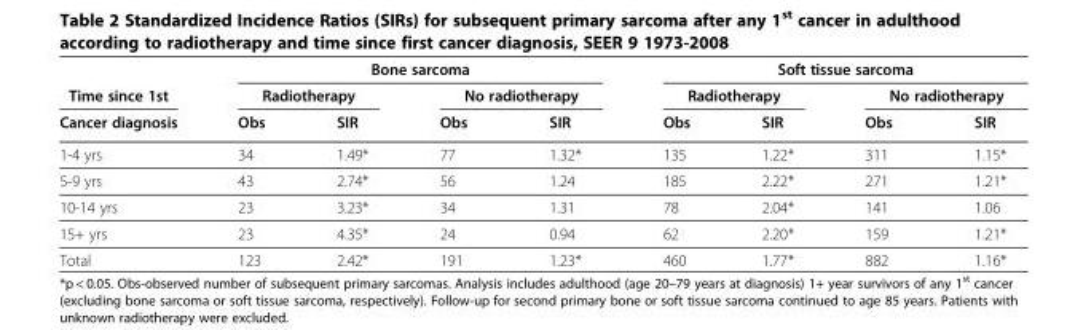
<table><thead><tr><td rowspan="3">Time since 1st Cancer diagnosis</td><td colspan="4">Bone sarcoma</td><td colspan="4">Soft tissue sarcoma</td></tr><tr><td colspan="2">Radiotherapy</td><td colspan="2">No radiotherapy</td><td colspan="2">Radiotherapy</td><td colspan="2">No radiotherapy</td></tr><tr><td>Obs</td><td>SIR</td><td>Obs</td><td>SIR</td><td>Obs</td><td>SIR</td><td>Obs</td><td>SIR</td></tr></thead><tbody><tr><td>1-4 yrs</td><td>34</td><td>1.49*</td><td>77</td><td>1.32*</td><td>135</td><td>1.22*</td><td>311</td><td>1.15*</td></tr><tr><td>5-9 yrs</td><td>43</td><td>2.74*</td><td>56</td><td>1.24</td><td>185</td><td>2.22*</td><td>271</td><td>1.21*</td></tr><tr><td>10-14 yrs</td><td>23</td><td>3.23*</td><td>34</td><td>1.31</td><td>78</td><td>2.04*</td><td>141</td><td>1.06</td></tr><tr><td>15+ yrs</td><td>23</td><td>4.35*</td><td>24</td><td>0.94</td><td>62</td><td>2.20*</td><td>159</td><td>1.21*</td></tr><tr><td>Total</td><td>123</td><td>2.42*</td><td>191</td><td>1.23*</td><td>460</td><td>1.77*</td><td>882</td><td>1.16*</td></tr></tbody></table>